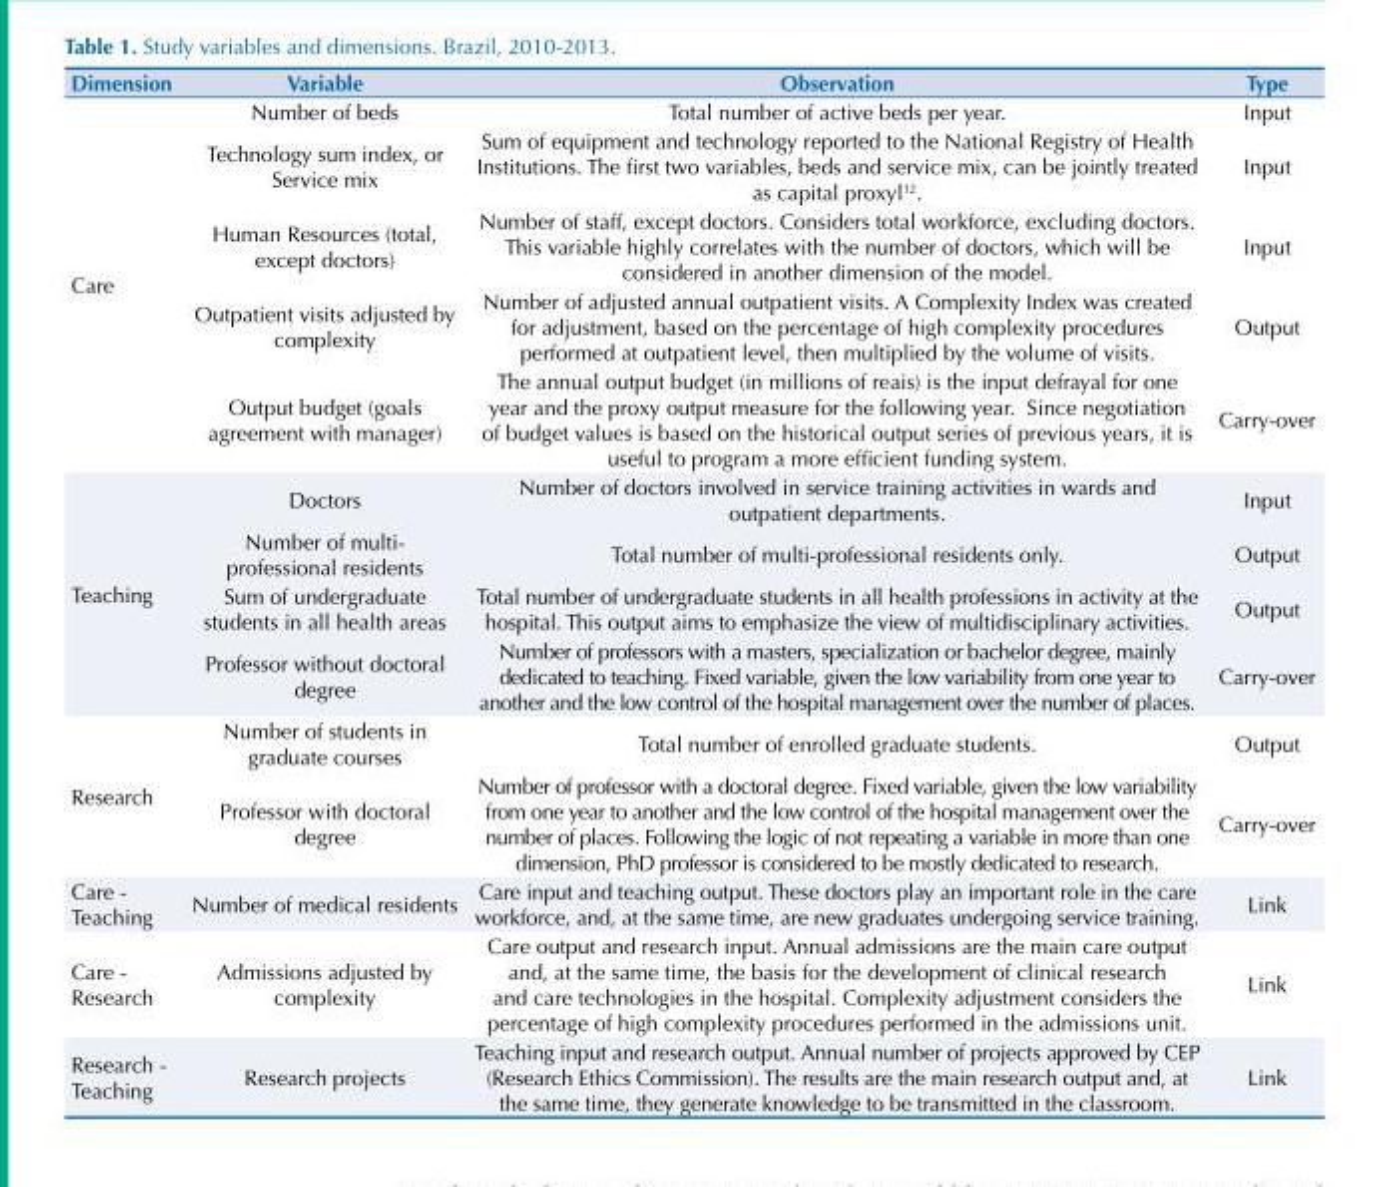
<table><thead><tr><td>Dimension</td><td>Variable</td><td>Observation</td><td>Type</td></tr></thead><tbody><tr><td rowspan="5">Care</td><td>Number of beds</td><td>Total number of active beds per year.</td><td>Input</td></tr><tr><td>Technology sum index, or Service mix</td><td>Sum of equipment and technology reported to the National Registry of Health Institutions. The first two variables, beds and service mix, can be jointly treated as capital proxyl<sup>12</sup>.</td><td>Input</td></tr><tr><td>Human Resources (total, except doctors)</td><td>Number of staff, except doctors. Considers total workforce, excluding doctors. This variable highly correlates with the number of doctors, which will be considered in another dimension of the model.</td><td>Input</td></tr><tr><td>Outpatient visits adjusted by complexity</td><td>Number of adjusted annual outpatient visits. A Complexity Index was created for adjustment, based on the percentage of high complexity procedures performed at outpatient level, then multiplied by the volume of visits.</td><td>Output</td></tr><tr><td>Output budget (goals agreement with manager)</td><td>The annual output budget (in millions of reais) is the input defrayal for one year and the proxy output measure for the following year. Since negotiation of budget values is based on the historical output series of previous years, it is useful to program a more efficient funding system.</td><td>Carry-over</td></tr><tr><td rowspan="4">Teaching</td><td>Doctors</td><td>Number of doctors involved in service training activities in wards and outpatient departments.</td><td>Input</td></tr><tr><td>Number of multi- professional residents</td><td>Total number of multi-professional residents only.</td><td>Output</td></tr><tr><td>Sum of undergraduate students in all health areas</td><td>Total number of undergraduate students in all health professions in activity at the hospital. This output aims to emphasize the view of multidisciplinary activities.</td><td>Output</td></tr><tr><td>Professor without doctoral degree</td><td>Number of professors with a masters, specialization or bachelor degree, mainly dedicated to teaching. Fixed variable, given the low variability from one year to another and the low control of the hospital management over the number of places.</td><td>Carry-over</td></tr><tr><td rowspan="2">Research</td><td>Number of students in graduate courses</td><td>Total number of enrolled graduate students.</td><td>Output</td></tr><tr><td>Professor with doctoral degree</td><td>Number of professor with a doctoral degree. Fixed variable, given the low variability from one year to another and the low control of the hospital management over the number of places. Following the logic of not repeating a variable in more than one dimension, PhD professor is considered to be mostly dedicated to research.</td><td>Carry-over</td></tr><tr><td>Care - Teaching</td><td>Number of medical residents</td><td>Care input and teaching output. These doctors play an important role in the care workforce, and, at the same time, are new graduates undergoing service training.</td><td>Link</td></tr><tr><td>Care - Research</td><td>Admissions adjusted by complexity</td><td>Care output and research input. Annual admissions are the main care output and, at the same time, the basis for the development of clinical research and care technologies in the hospital. Complexity adjustment considers the percentage of high complexity procedures performed in the admissions unit.</td><td>Link</td></tr><tr><td>Research - Teaching</td><td>Research projects</td><td>Teaching input and research output. Annual number of projects approved by CEP (Research Ethics Commission). The results are the main research output and, at the same time, they generate knowledge to be transmitted in the classroom.</td><td>Link</td></tr></tbody></table>